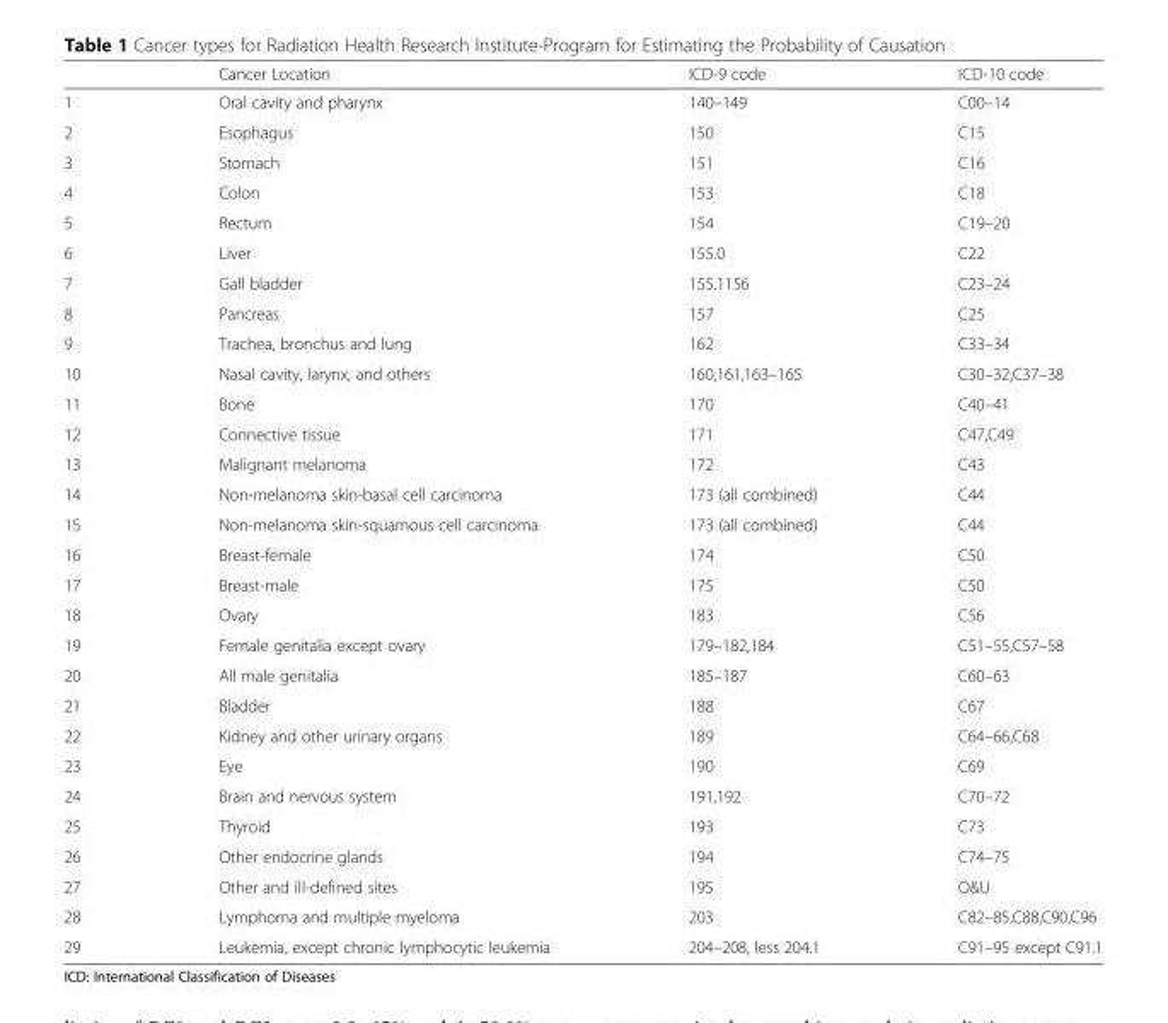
<table><thead><tr><td></td><td>Cancer Location</td><td>ICD-9 code</td><td>ICD-10 code</td></tr></thead><tbody><tr><td>1</td><td>Oral cavity and pharynx</td><td>140–149</td><td>C00–14</td></tr><tr><td>2</td><td>Esophagus</td><td>150</td><td>C15</td></tr><tr><td>3</td><td>Stomach</td><td>151</td><td>C16</td></tr><tr><td>4</td><td>Colon</td><td>153</td><td>C18</td></tr><tr><td>5</td><td>Rectum</td><td>154</td><td>C19–20</td></tr><tr><td>6</td><td>Liver</td><td>155.0</td><td>C22</td></tr><tr><td>7</td><td>Gall bladder</td><td>155.1156</td><td>C23–24</td></tr><tr><td>8</td><td>Pancreas</td><td>157</td><td>C25</td></tr><tr><td>9</td><td>Trachea, bronchus and lung</td><td>162</td><td>C33–34</td></tr><tr><td>10</td><td>Nasal cavity, larynx, and others</td><td>160,161,163–165</td><td>C30–32,C37–38</td></tr><tr><td>11</td><td>Bone</td><td>170</td><td>C40–41</td></tr><tr><td>12</td><td>Connective tissue</td><td>171</td><td>C47,C49</td></tr><tr><td>13</td><td>Malignant melanoma</td><td>172</td><td>C43</td></tr><tr><td>14</td><td>Non-melanoma skin-basal cell carcinoma</td><td>173 (all combined)</td><td>C44</td></tr><tr><td>15</td><td>Non-melanoma skin-squamous cell carcinoma</td><td>173 (all combined)</td><td>C44</td></tr><tr><td>16</td><td>Breast-female</td><td>174</td><td>C50</td></tr><tr><td>17</td><td>Breast-male</td><td>175</td><td>C50</td></tr><tr><td>18</td><td>Ovary</td><td>183</td><td>C56</td></tr><tr><td>19</td><td>Female genitalia except ovary</td><td>179–182,184</td><td>C51–55,C57–58</td></tr><tr><td>20</td><td>All male genitalia</td><td>185–187</td><td>C60–63</td></tr><tr><td>21</td><td>Bladder</td><td>188</td><td>C67</td></tr><tr><td>22</td><td>Kidney and other urinary organs</td><td>189</td><td>C64–66,C68</td></tr><tr><td>23</td><td>Eye</td><td>190</td><td>C69</td></tr><tr><td>24</td><td>Brain and nervous system</td><td>191,192</td><td>C70–72</td></tr><tr><td>25</td><td>Thyroid</td><td>193</td><td>C73</td></tr><tr><td>26</td><td>Other endocrine glands</td><td>194</td><td>C74–75</td></tr><tr><td>27</td><td>Other and ill-defined sites</td><td>195</td><td>O&amp;U</td></tr><tr><td>28</td><td>Lymphoma and multiple myeloma</td><td>203</td><td>C82–85,C88,C90,C96</td></tr><tr><td>29</td><td>Leukemia, except chronic lymphocytic leukemia</td><td>204–208, less 204.1</td><td>C91–95 except C91.1</td></tr></tbody></table>